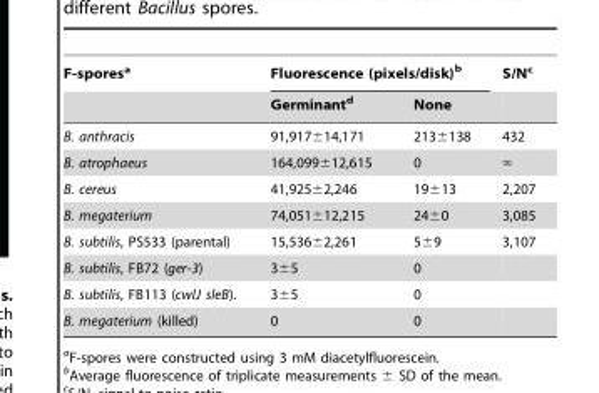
<table><thead><tr><td rowspan="2">F-spores<sup>a</sup></td><td colspan="2">Fluorescence (pixels/disk)<sup>b</sup></td><td rowspan="2">S/N<sup>c</sup></td></tr><tr><td>Germinant<sup>d</sup></td><td>None</td></tr></thead><tbody><tr><td>B. anthracis</td><td>91,917±14,171</td><td>213±138</td><td>432</td></tr><tr><td>B. atrophaeus</td><td>164,099±12,615</td><td>0</td><td>‘</td></tr><tr><td>B. cereus</td><td>41,925±2,246</td><td>19±13</td><td>2,207</td></tr><tr><td>B. megaterium</td><td>74,051±12,215</td><td>24±0</td><td>3,085</td></tr><tr><td>B. subtilis, PS533 (parental)</td><td>15,536±2,261</td><td>5±9</td><td>3,107</td></tr><tr><td>B. subtilis, FB72 (ger-3)</td><td>3±5</td><td>0</td><td></td></tr><tr><td>B. subtilis, FB113 (cwlJ sleB).</td><td>3±5</td><td>0</td><td></td></tr><tr><td>B. megaterium (killed)</td><td>0</td><td>0</td><td></td></tr></tbody></table>